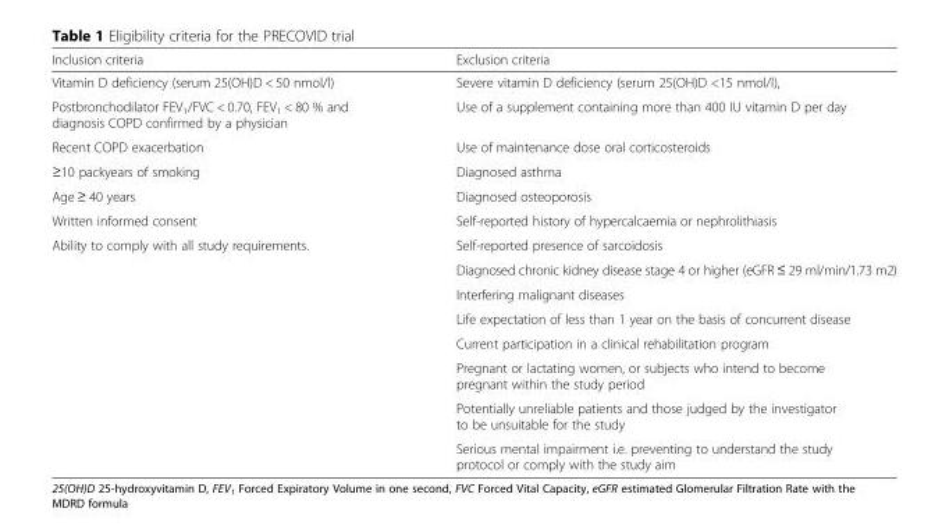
<table><thead><tr><td>Inclusion criteria</td><td>Exclusion criteria</td></tr></thead><tbody><tr><td>Vitamin D deficiency (serum 25(OH)D &lt; 50 nmol/l)</td><td>Severe vitamin D deficiency (serum 25(OH)D &lt;15 nmol/l),</td></tr><tr><td>Postbronchodilator FEV<sub>1</sub>/FVC &lt; 0.70, FEV<sub>1</sub> &lt; 80 % and diagnosis COPD confirmed by a physician</td><td>Use of a supplement containing more than 400 IU vitamin D per day</td></tr><tr><td>Recent COPD exacerbation</td><td>Use of maintenance dose oral corticosteroids</td></tr><tr><td>≥10 packyears of smoking</td><td>Diagnosed asthma</td></tr><tr><td>Age ≥ 40 years</td><td>Diagnosed osteoporosis</td></tr><tr><td>Written informed consent</td><td>Self-reported history of hypercalcaemia or nephrolithiasis</td></tr><tr><td rowspan="8">Ability to comply with all study requirements.</td><td>Self-reported presence of sarcoidosis</td></tr><tr><td>Diagnosed chronic kidney disease stage 4 or higher (eGFR ≤ 29 ml/min/1.73 m2)</td></tr><tr><td>Interfering malignant diseases</td></tr><tr><td>Life expectation of less than 1 year on the basis of concurrent disease</td></tr><tr><td>Current participation in a clinical rehabilitation program</td></tr><tr><td>Pregnant or lactating women, or subjects who intend to become pregnant within the study period</td></tr><tr><td>Potentially unreliable patients and those judged by the investigator to be unsuitable for the study</td></tr><tr><td>Serious mental impairment i.e. preventing to understand the study protocol or comply with the study aim</td></tr></tbody></table>